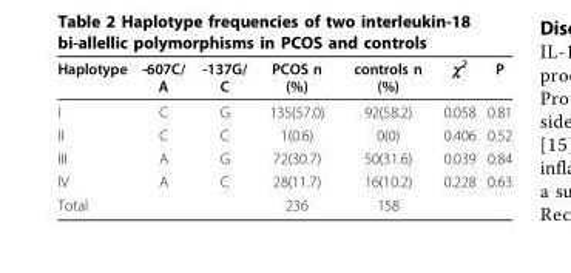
<table><thead><tr><td>Haplotype</td><td>-607C/ A</td><td>-137G/ C</td><td>PCOS n (%)</td><td>controls n (%)</td><td>χ<sup>2</sup></td><td>P</td></tr></thead><tbody><tr><td>I</td><td>C</td><td>G</td><td>135(57.0)</td><td>92(58.2)</td><td>0.058</td><td>0.81</td></tr><tr><td>II</td><td>C</td><td>C</td><td>1(0.6)</td><td>0(0)</td><td>0.406</td><td>0.52</td></tr><tr><td>III</td><td>A</td><td>G</td><td>72(30.7)</td><td>50(31.6)</td><td>0.039</td><td>0.84</td></tr><tr><td>IV</td><td>A</td><td>C</td><td>28(11.7)</td><td>16(10.2)</td><td>0.228</td><td>0.63</td></tr><tr><td>Total</td><td></td><td></td><td>236</td><td>158</td><td></td><td></td></tr></tbody></table>